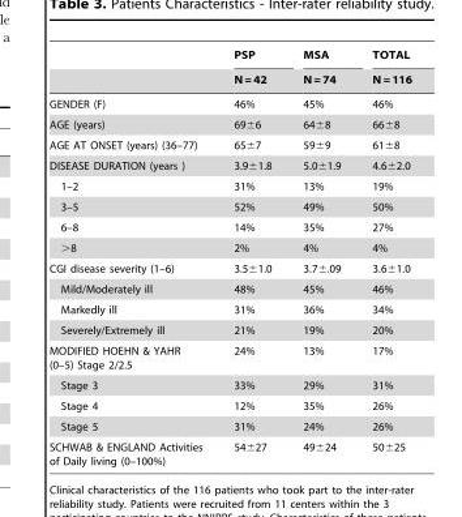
<table><thead><tr><td rowspan="2"></td><td rowspan="2">PSP N = 42</td><td rowspan="2">MSA N = 74</td><td rowspan="2">TOTAL N = 116</td></tr><tr></tr></thead><tbody><tr><td>GENDER (F)</td><td>46%</td><td>45%</td><td>46%</td></tr><tr><td>AGE (years)</td><td>69±6</td><td>64±8</td><td>66±8</td></tr><tr><td>AGE AT ONSET (years) (36–77)</td><td>65±7</td><td>59±9</td><td>61±8</td></tr><tr><td>DISEASE DURATION (years )</td><td>3.9±1.8</td><td>5.0±1.9</td><td>4.6±2.0</td></tr><tr><td>1–2</td><td>31%</td><td>13%</td><td>19%</td></tr><tr><td>3–5</td><td>52%</td><td>49%</td><td>50%</td></tr><tr><td>6–8</td><td>14%</td><td>35%</td><td>27%</td></tr><tr><td>&gt;8</td><td>2%</td><td>4%</td><td>4%</td></tr><tr><td>CGI disease severity (1–6)</td><td>3.5±1.0</td><td>3.7±.09</td><td>3.6±1.0</td></tr><tr><td>Mild/Moderately ill</td><td>48%</td><td>45%</td><td>46%</td></tr><tr><td>Markedly ill</td><td>31%</td><td>36%</td><td>34%</td></tr><tr><td>Severely/Extremely ill</td><td>21%</td><td>19%</td><td>20%</td></tr><tr><td>MODIFIED HOEHN &amp; YAHR (0–5) Stage 2/2.5</td><td>24%</td><td>13%</td><td>17%</td></tr><tr><td>Stage 3</td><td>33%</td><td>29%</td><td>31%</td></tr><tr><td>Stage 4</td><td>12%</td><td>35%</td><td>26%</td></tr><tr><td>Stage 5</td><td>31%</td><td>24%</td><td>26%</td></tr><tr><td>SCHWAB &amp; ENGLAND Activities of Daily living (0–100%)</td><td>54±27</td><td>49±24</td><td>50±25</td></tr></tbody></table>